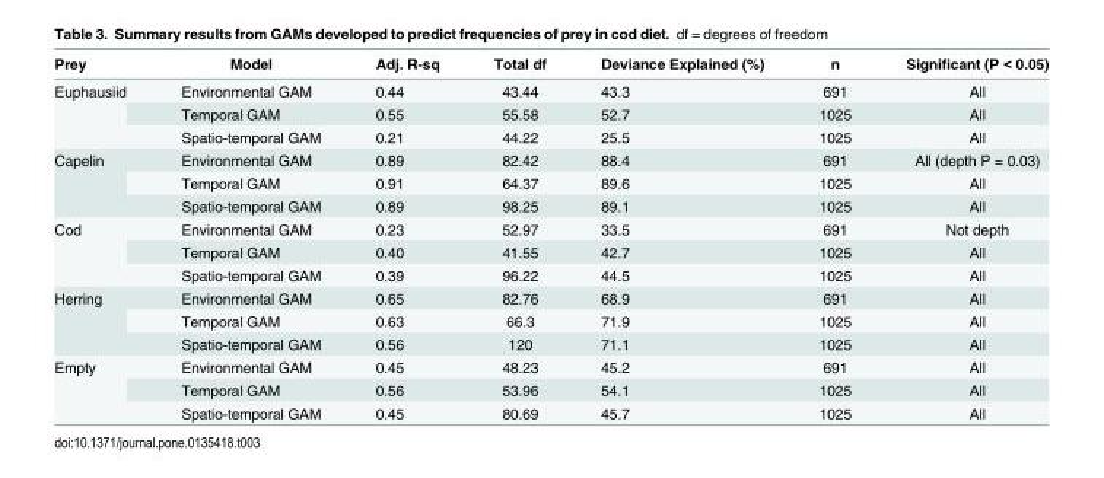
<table><thead><tr><td>Prey</td><td>Model</td><td>Adj. R-sq</td><td>Total df</td><td>Deviance Explained (%)</td><td>n</td><td>Significant (P &lt; 0.05)</td></tr></thead><tbody><tr><td rowspan="3">Euphausiid</td><td>Environmental GAM</td><td>0.44</td><td>43.44</td><td>43.3</td><td>691</td><td>All</td></tr><tr><td>Temporal GAM</td><td>0.55</td><td>55.58</td><td>52.7</td><td>1025</td><td>All</td></tr><tr><td>Spatio-temporal GAM</td><td>0.21</td><td>44.22</td><td>25.5</td><td>1025</td><td>All</td></tr><tr><td rowspan="3">Capelin</td><td>Environmental GAM</td><td>0.89</td><td>82.42</td><td>88.4</td><td>691</td><td>All (depth P = 0.03)</td></tr><tr><td>Temporal GAM</td><td>0.91</td><td>64.37</td><td>89.6</td><td>1025</td><td>All</td></tr><tr><td>Spatio-temporal GAM</td><td>0.89</td><td>98.25</td><td>89.1</td><td>1025</td><td>All</td></tr><tr><td rowspan="3">Cod</td><td>Environmental GAM</td><td>0.23</td><td>52.97</td><td>33.5</td><td>691</td><td>Not depth</td></tr><tr><td>Temporal GAM</td><td>0.40</td><td>41.55</td><td>42.7</td><td>1025</td><td>All</td></tr><tr><td>Spatio-temporal GAM</td><td>0.39</td><td>96.22</td><td>44.5</td><td>1025</td><td>All</td></tr><tr><td rowspan="3">Herring</td><td>Environmental GAM</td><td>0.65</td><td>82.76</td><td>68.9</td><td>691</td><td>All</td></tr><tr><td>Temporal GAM</td><td>0.63</td><td>66.3</td><td>71.9</td><td>1025</td><td>All</td></tr><tr><td>Spatio-temporal GAM</td><td>0.56</td><td>120</td><td>71.1</td><td>1025</td><td>All</td></tr><tr><td rowspan="3">Empty</td><td>Environmental GAM</td><td>0.45</td><td>48.23</td><td>45.2</td><td>691</td><td>All</td></tr><tr><td>Temporal GAM</td><td>0.56</td><td>53.96</td><td>54.1</td><td>1025</td><td>All</td></tr><tr><td>Spatio-temporal GAM</td><td>0.45</td><td>80.69</td><td>45.7</td><td>1025</td><td>All</td></tr></tbody></table>